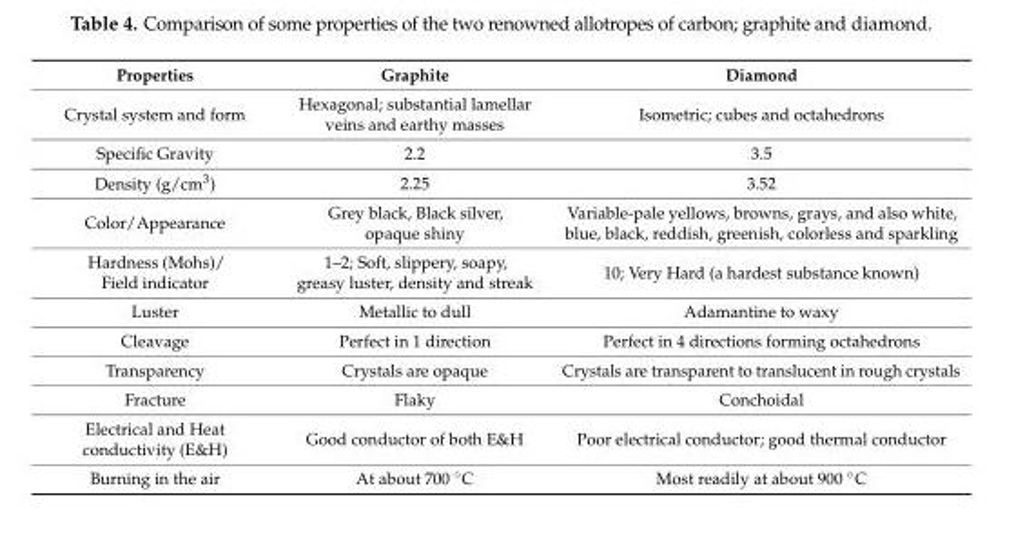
<table><thead><tr><td>Properties</td><td>Graphite</td><td>Diamond</td></tr></thead><tbody><tr><td>Crystal system and form</td><td>Hexagonal; substantial lamellar veins and earthy masses</td><td>Isometric; cubes and octahedrons</td></tr><tr><td>Specific Gravity</td><td>2.2</td><td>3.5</td></tr><tr><td>Density (g/cm<sup>3</sup>)</td><td>2.25</td><td>3.52</td></tr><tr><td>Color/Appearance</td><td>Grey black, Black silver, opaque shiny</td><td>Variable-pale yellows, browns, grays, and also white, blue, black, reddish, greenish, colorless and sparkling</td></tr><tr><td>Hardness (Mohs)/ Field indicator</td><td>1–2; Soft, slippery, soapy, greasy luster, density and streak</td><td>10; Very Hard (a hardest substance known)</td></tr><tr><td>Luster</td><td>Metallic to dull</td><td>Adamantine to waxy</td></tr><tr><td>Cleavage</td><td>Perfect in 1 direction</td><td>Perfect in 4 directions forming octahedrons</td></tr><tr><td>Transparency</td><td>Crystals are opaque</td><td>Crystals are transparent to translucent in rough crystals</td></tr><tr><td>Fracture</td><td>Flaky</td><td>Conchoidal</td></tr><tr><td>Electrical and Heat conductivity (E&amp;H)</td><td>Good conductor of both E&amp;H</td><td>Poor electrical conductor; good thermal conductor</td></tr><tr><td>Burning in the air</td><td>At about 700 ◦C</td><td>Most readily at about 900 ◦C</td></tr></tbody></table>